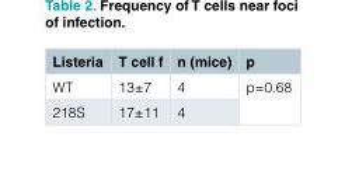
<table><thead><tr><td>Listeria</td><td>T cell f</td><td>n (mice)</td><td>p</td></tr></thead><tbody><tr><td>WT</td><td>13±7</td><td>4</td><td rowspan="2">p=0.68</td></tr><tr><td>218S</td><td>17±11</td><td>4</td></tr></tbody></table>